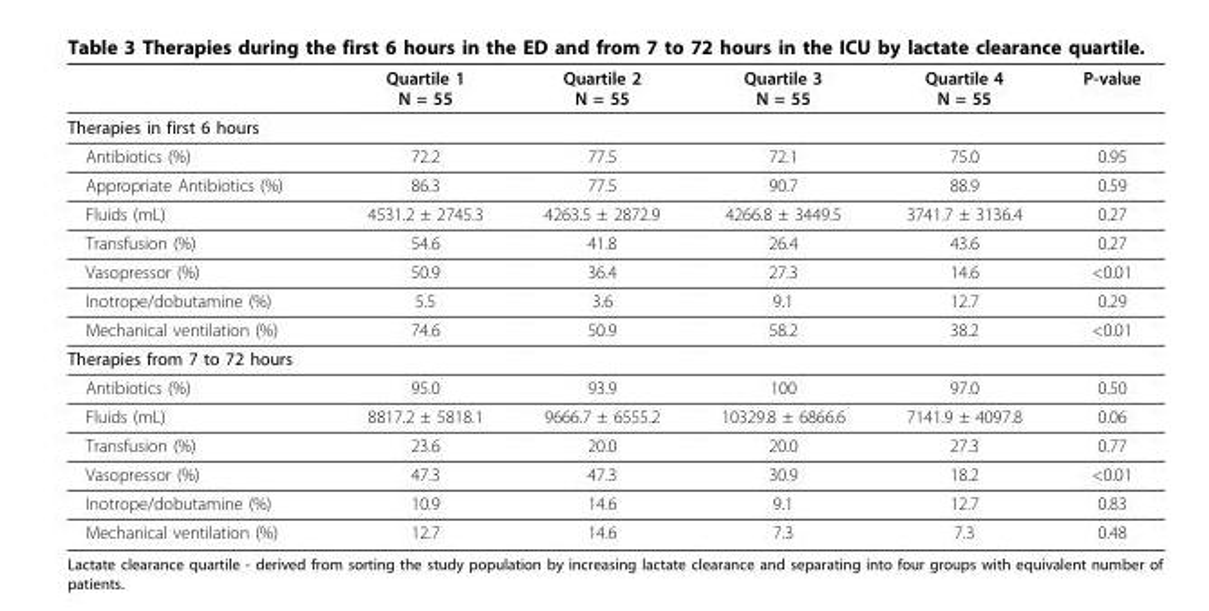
<table><thead><tr><td></td><td>Quartile 1 N = 55</td><td>Quartile 2 N = 55</td><td>Quartile 3 N = 55</td><td>Quartile 4 N = 55</td><td>P-value</td></tr></thead><tbody><tr><td colspan="6">Therapies in first 6 hours</td></tr><tr><td>Antibiotics (%)</td><td>72.2</td><td>77.5</td><td>72.1</td><td>75.0</td><td>0.95</td></tr><tr><td>Appropriate Antibiotics (%)</td><td>86.3</td><td>77.5</td><td>90.7</td><td>88.9</td><td>0.59</td></tr><tr><td>Fluids (mL)</td><td>4531.2 ± 2745.3</td><td>4263.5 ± 2872.9</td><td>4266.8 ± 3449.5</td><td>3741.7 ± 3136.4</td><td>0.27</td></tr><tr><td>Transfusion (%)</td><td>54.6</td><td>41.8</td><td>26.4</td><td>43.6</td><td>0.27</td></tr><tr><td>Vasopressor (%)</td><td>50.9</td><td>36.4</td><td>27.3</td><td>14.6</td><td>&lt;0.01</td></tr><tr><td>Inotrope/dobutamine (%)</td><td>5.5</td><td>3.6</td><td>9.1</td><td>12.7</td><td>0.29</td></tr><tr><td>Mechanical ventilation (%)</td><td>74.6</td><td>50.9</td><td>58.2</td><td>38.2</td><td>&lt;0.01</td></tr><tr><td colspan="6">Therapies from 7 to 72 hours</td></tr><tr><td>Antibiotics (%)</td><td>95.0</td><td>93.9</td><td>100</td><td>97.0</td><td>0.50</td></tr><tr><td>Fluids (mL)</td><td>8817.2 ± 5818.1</td><td>9666.7 ± 6555.2</td><td>10329.8 ± 6866.6</td><td>7141.9 ± 4097.8</td><td>0.06</td></tr><tr><td>Transfusion (%)</td><td>23.6</td><td>20.0</td><td>20.0</td><td>27.3</td><td>0.77</td></tr><tr><td>Vasopressor (%)</td><td>47.3</td><td>47.3</td><td>30.9</td><td>18.2</td><td>&lt;0.01</td></tr><tr><td>Inotrope/dobutamine (%)</td><td>10.9</td><td>14.6</td><td>9.1</td><td>12.7</td><td>0.83</td></tr><tr><td>Mechanical ventilation (%)</td><td>12.7</td><td>14.6</td><td>7.3</td><td>7.3</td><td>0.48</td></tr></tbody></table>